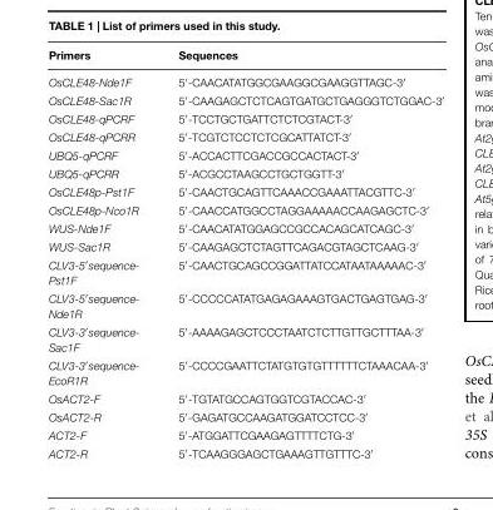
<table><thead><tr><td>Primers</td><td>Sequences</td></tr></thead><tbody><tr><td>OsCLE48-Nde1F</td><td>5<sup>′</sup>-CAACATATGGCGAAGGCGAAGGTTAGC-3<sup>′</sup></td></tr><tr><td>OsCLE48-Sac1R</td><td>5<sup>′</sup>-CAAGAGCTCTCAGTGATGCTGAGGGTCTGGAC-3<sup>′</sup></td></tr><tr><td>OsCLE48-qPCRF</td><td>5<sup>′</sup>-TCCTGCTGATTCTCTCGTACT-3<sup>′</sup></td></tr><tr><td>OsCLE48-qPCRR</td><td>5<sup>′</sup>-TCGTCTCCTCTCGCATTATCT-3<sup>′</sup></td></tr><tr><td>UBQ5-qPCRF</td><td>5<sup>′</sup>-ACCACTTCGACCGCCACTACT-3<sup>′</sup></td></tr><tr><td>UBQ5-qPCRR</td><td>5<sup>′</sup>-ACGCCTAAGCCTGCTGGTT-3<sup>′</sup></td></tr><tr><td>OsCLE48p-Pst1F</td><td>5<sup>′</sup>-CAACTGCAGTTCAAACCGAAATTACGTTC-3<sup>′</sup></td></tr><tr><td>OsCLE48p-Nco1R</td><td>5<sup>′</sup>-CAACCATGGCCTAGGAAAAACCAAGAGCTC-3<sup>′</sup></td></tr><tr><td>WUS-Nde1F</td><td>5<sup>′</sup>-CAACATATGGAGCCGCCACAGCATCAGC-3<sup>′</sup></td></tr><tr><td>WUS-Sac1R</td><td>5<sup>′</sup>-CAAGAGCTCTAGTTCAGACGTAGCTCAAG-3<sup>′</sup></td></tr><tr><td>CLV3-5<sup>′</sup>sequence- Pst1F</td><td>5<sup>′</sup>-CAACTGCAGCCGGATTATCCATAATAAAAAC-3<sup>′</sup></td></tr><tr><td>CLV3-5<sup>′</sup>sequence- Nde1R</td><td>5<sup>′</sup>-CCCCCATATGAGAGAAAGTGACTGAGTGAG-3<sup>′</sup></td></tr><tr><td>CLV3-3<sup>′</sup>sequence- Sac1F</td><td>5<sup>′</sup>-AAAAGAGCTCCCTAATCTCTTGTTGCTTTAA-3<sup>′</sup></td></tr><tr><td>CLV3-3<sup>′</sup>sequence- EcoR1R</td><td>5<sup>′</sup>-CCCCGAATTCTATGTGTGTTTTTTCTAAACAA-3<sup>′</sup></td></tr><tr><td>OsACT2-F</td><td>5<sup>′</sup>-TGTATGCCAGTGGTCGTACCAC-3<sup>′</sup></td></tr><tr><td>OsACT2-R</td><td>5<sup>′</sup>-GAGATGCCAAGATGGATCCTCC-3<sup>′</sup></td></tr><tr><td>ACT2-F</td><td>5<sup>′</sup>-ATGGATTCGAAGAGTTTTCTG-3<sup>′</sup></td></tr><tr><td>ACT2-R</td><td>5<sup>′</sup>-TCAAGGGAGCTGAAAGTTGTTTC-3<sup>′</sup></td></tr></tbody></table>